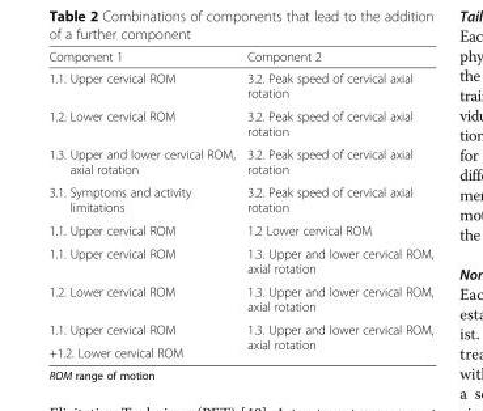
<table><thead><tr><td>Component 1</td><td>Component 2</td></tr></thead><tbody><tr><td>1.1. Upper cervical ROM</td><td>3.2. Peak speed of cervical axial rotation</td></tr><tr><td>1.2. Lower cervical ROM</td><td>3.2. Peak speed of cervical axial rotation</td></tr><tr><td>1.3. Upper and lower cervical ROM, axial rotation</td><td>3.2. Peak speed of cervical axial rotation</td></tr><tr><td>3.1. Symptoms and activity limitations</td><td>3.2. Peak speed of cervical axial rotation</td></tr><tr><td>1.1. Upper cervical ROM</td><td>1.2 Lower cervical ROM</td></tr><tr><td>1.1. Upper cervical ROM</td><td>1.3. Upper and lower cervical ROM, axial rotation</td></tr><tr><td>1.2. Lower cervical ROM</td><td>1.3. Upper and lower cervical ROM, axial rotation</td></tr><tr><td>1.1. Upper cervical ROM</td><td rowspan="2">1.3. Upper and lower cervical ROM, axial rotation</td></tr><tr><td>+1.2. Lower cervical ROM</td></tr></tbody></table>